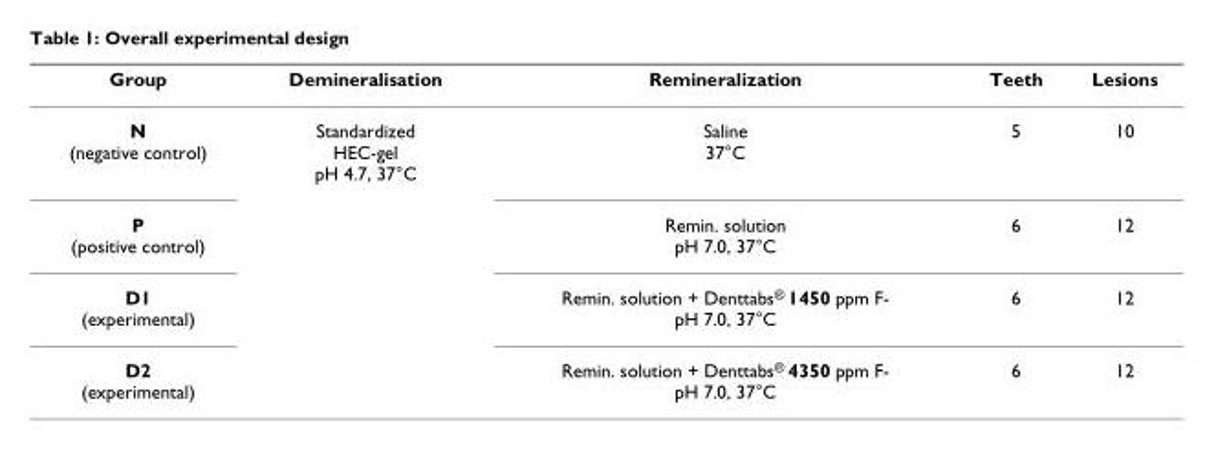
<table><thead><tr><td>Group</td><td>Demineralisation</td><td>Remineralization</td><td>Teeth</td><td>Lesions</td></tr></thead><tbody><tr><td>N (negative control)</td><td>Standardized HEC-gel pH 4.7, 37°C</td><td>Saline 37°C</td><td>5</td><td>10</td></tr><tr><td>P (positive control)</td><td></td><td>Remin. solution pH 7.0, 37°C</td><td>6</td><td>12</td></tr><tr><td>D1 (experimental)</td><td></td><td>Remin. solution + Denttabs<sup>®</sup> 1450 ppm F- pH 7.0, 37°C</td><td>6</td><td>12</td></tr><tr><td>D2 (experimental)</td><td></td><td>Remin. solution + Denttabs<sup>®</sup> 4350 ppm F- pH 7.0, 37°C</td><td>6</td><td>12</td></tr></tbody></table>